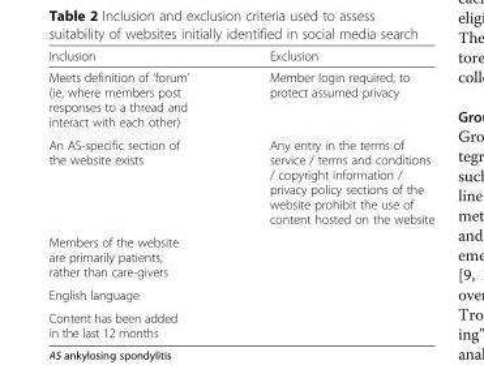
<table><thead><tr><td>Inclusion</td><td>Exclusion</td></tr></thead><tbody><tr><td>Meets definition of ‘forum’ (ie, where members post responses to a thread and interact with each other)</td><td>Member login required, to protect assumed privacy</td></tr><tr><td>An AS-specific section of the website exists</td><td>Any entry in the terms of service / terms and conditions / copyright information / privacy policy sections of the website prohibit the use of content hosted on the website</td></tr><tr><td colspan="2">Members of the website are primarily patients, rather than care-givers</td></tr><tr><td colspan="2">English language</td></tr><tr><td>Content has been added in the last 12 months</td><td></td></tr></tbody></table>